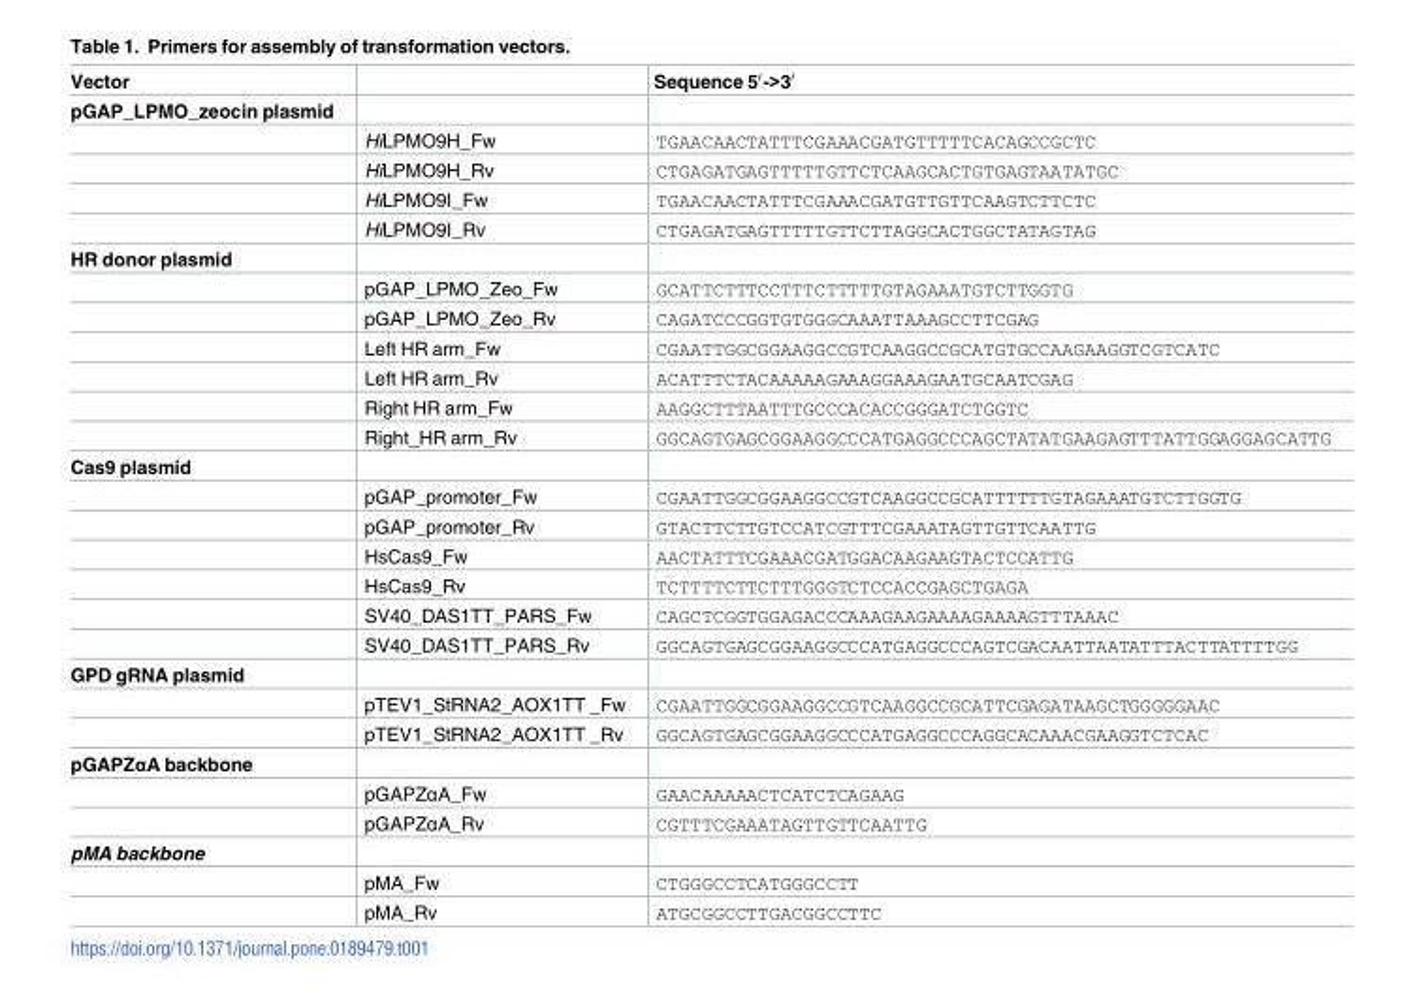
<table><thead><tr><td>Vector</td><td></td><td>Sequence 5′-&gt;3′</td></tr></thead><tbody><tr><td colspan="3">pGAP_LPMO_zeocin plasmid</td></tr><tr><td></td><td>HiLPMO9H_Fw</td><td>TGAACAACTATTTCGAAACGATGTTTTTCACAGCCGCTC</td></tr><tr><td></td><td>HiLPMO9H_Rv</td><td>CTGAGATGAGTTTTTGTTCTCAAGCACTGTGAGTAATATGC</td></tr><tr><td></td><td>HiLPMO9I_Fw</td><td>TGAACAACTATTTCGAAACGATGTTGTTCAAGTCTTCTC</td></tr><tr><td></td><td>HiLPMO9I_Rv</td><td>CTGAGATGAGTTTTTGTTCTTAGGCACTGGCTATAGTAG</td></tr><tr><td colspan="3">HR donor plasmid</td></tr><tr><td></td><td>pGAP_LPMO_Zeo_Fw</td><td>GCATTCTTTCCTTTCTTTTTGTAGAAATGTCTTGGTG</td></tr><tr><td></td><td>pGAP_LPMO_Zeo_Rv</td><td>CAGATCCCGGTGTGGGCAAATTAAAGCCTTCGAG</td></tr><tr><td></td><td>Left HR arm_Fw</td><td>CGAATTGGCGGAAGGCCGTCAAGGCCGCATGTGCCAAGAAGGTCGTCATC</td></tr><tr><td></td><td>Left HR arm_Rv</td><td>ACATTTCTACAAAAAGAAAGGAAAGAATGCAATCGAG</td></tr><tr><td></td><td>Right HR arm_Fw</td><td>AAGGCTTTAATTTGCCCACACCGGGATCTGGTC</td></tr><tr><td></td><td>Right_HR arm_Rv</td><td>GGCAGTGAGCGGAAGGCCCATGAGGCCCAGCTATATGAAGAGTTTATTGGAGGAGCATTG</td></tr><tr><td colspan="3">Cas9 plasmid</td></tr><tr><td></td><td>pGAP_promoter_Fw</td><td>CGAATTGGCGGAAGGCCGTCAAGGCCGCATTTTTTGTAGAAATGTCTTGGTG</td></tr><tr><td></td><td>pGAP_promoter_Rv</td><td>GTACTTCTTGTCCATCGTTTCGAAATAGTTGTTCAATTG</td></tr><tr><td></td><td>HsCas9_Fw</td><td>AACTATTTCGAAACGATGGACAAGAAGTACTCCATTG</td></tr><tr><td></td><td>HsCas9_Rv</td><td>TCTTTTCTTCTTTGGGTCTCCACCGAGCTGAGA</td></tr><tr><td></td><td>SV40_DAS1TT_PARS_Fw</td><td>CAGCTCGGTGGAGACCCAAAGAAGAAAAGAAAAGTTTAAAC</td></tr><tr><td></td><td>SV40_DAS1TT_PARS_Rv</td><td>GGCAGTGAGCGGAAGGCCCATGAGGCCCAGTCGACAATTAATATTTACTTATTTTGG</td></tr><tr><td colspan="3">GPD gRNA plasmid</td></tr><tr><td></td><td>pTEV1_StRNA2_AOX1TT _Fw</td><td>CGAATTGGCGGAAGGCCGTCAAGGCCGCATTCGAGATAAGCTGGGGGAAC</td></tr><tr><td></td><td>pTEV1_StRNA2_AOX1TT _Rv</td><td>GGCAGTGAGCGGAAGGCCCATGAGGCCCAGGCACAAACGAAGGTCTCAC</td></tr><tr><td colspan="3">pGAPZαA backbone</td></tr><tr><td></td><td>pGAPZαA_Fw</td><td>GAACAAAAACTCATCTCAGAAG</td></tr><tr><td></td><td>pGAPZαA_Rv</td><td>CGTTTCGAAATAGTTGTTCAATTG</td></tr><tr><td colspan="3">pMA backbone</td></tr><tr><td></td><td>pMA_Fw</td><td>CTGGGCCTCATGGGCCTT</td></tr><tr><td></td><td>pMA_Rv</td><td>ATGCGGCCTTGACGGCCTTC</td></tr></tbody></table>